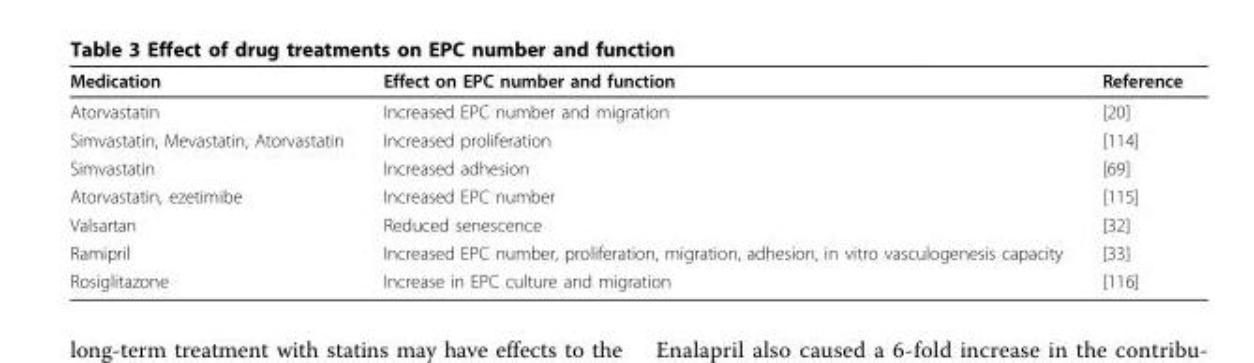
<table><thead><tr><td>Medication</td><td>Effect on EPC number and function</td><td>Reference</td></tr></thead><tbody><tr><td>Atorvastatin</td><td>Increased EPC number and migration</td><td>[20]</td></tr><tr><td>Simvastatin, Mevastatin, Atorvastatin</td><td>Increased proliferation</td><td>[114]</td></tr><tr><td>Simvastatin</td><td>Increased adhesion</td><td>[69]</td></tr><tr><td>Atorvastatin, ezetimibe</td><td>Increased EPC number</td><td>[115]</td></tr><tr><td>Valsartan</td><td>Reduced senescence</td><td>[32]</td></tr><tr><td>Ramipril</td><td>Increased EPC number, proliferation, migration, adhesion, in vitro vasculogenesis capacity</td><td>[33]</td></tr><tr><td>Rosiglitazone</td><td>Increase in EPC culture and migration</td><td>[116]</td></tr></tbody></table>